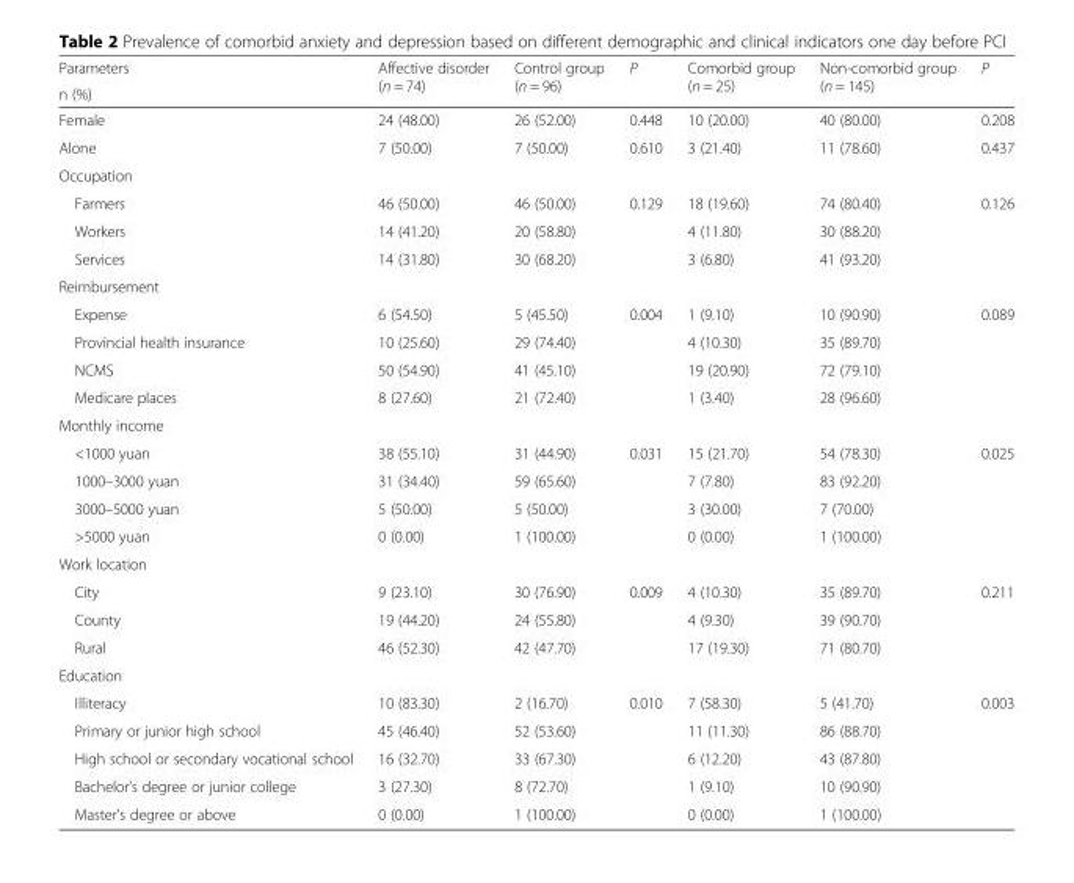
<table><thead><tr><td rowspan="2">Parameters n (%)</td><td rowspan="2">Affective disorder (n = 74)</td><td rowspan="2">Control group (n = 96)</td><td rowspan="2">P</td><td rowspan="2">Comorbid group (n = 25)</td><td rowspan="2">Non-comorbid group (n = 145)</td><td rowspan="2">P</td></tr><tr></tr></thead><tbody><tr><td>Female</td><td>24 (48.00)</td><td>26 (52.00)</td><td>0.448</td><td>10 (20.00)</td><td>40 (80.00)</td><td>0.208</td></tr><tr><td>Alone</td><td>7 (50.00)</td><td>7 (50.00)</td><td>0.610</td><td>3 (21.40)</td><td>11 (78.60)</td><td>0.437</td></tr><tr><td colspan="7">Occupation</td></tr><tr><td>Farmers</td><td>46 (50.00)</td><td>46 (50.00)</td><td>0.129</td><td>18 (19.60)</td><td>74 (80.40)</td><td>0.126</td></tr><tr><td>Workers</td><td>14 (41.20)</td><td>20 (58.80)</td><td></td><td>4 (11.80)</td><td>30 (88.20)</td><td></td></tr><tr><td>Services</td><td>14 (31.80)</td><td>30 (68.20)</td><td></td><td>3 (6.80)</td><td>41 (93.20)</td><td></td></tr><tr><td colspan="7">Reimbursement</td></tr><tr><td>Expense</td><td>6 (54.50)</td><td>5 (45.50)</td><td>0.004</td><td>1 (9.10)</td><td>10 (90.90)</td><td>0.089</td></tr><tr><td>Provincial health insurance</td><td>10 (25.60)</td><td>29 (74.40)</td><td></td><td>4 (10.30)</td><td>35 (89.70)</td><td></td></tr><tr><td>NCMS</td><td>50 (54.90)</td><td>41 (45.10)</td><td></td><td>19 (20.90)</td><td>72 (79.10)</td><td></td></tr><tr><td>Medicare places</td><td>8 (27.60)</td><td>21 (72.40)</td><td></td><td>1 (3.40)</td><td>28 (96.60)</td><td></td></tr><tr><td colspan="7">Monthly income</td></tr><tr><td>&lt;1000 yuan</td><td>38 (55.10)</td><td>31 (44.90)</td><td>0.031</td><td>15 (21.70)</td><td>54 (78.30)</td><td>0.025</td></tr><tr><td>1000–3000 yuan</td><td>31 (34.40)</td><td>59 (65.60)</td><td></td><td>7 (7.80)</td><td>83 (92.20)</td><td></td></tr><tr><td>3000–5000 yuan</td><td>5 (50.00)</td><td>5 (50.00)</td><td></td><td>3 (30.00)</td><td>7 (70.00)</td><td></td></tr><tr><td>&gt;5000 yuan</td><td>0 (0.00)</td><td>1 (100.00)</td><td></td><td>0 (0.00)</td><td>1 (100.00)</td><td></td></tr><tr><td colspan="7">Work location</td></tr><tr><td>City</td><td>9 (23.10)</td><td>30 (76.90)</td><td>0.009</td><td>4 (10.30)</td><td>35 (89.70)</td><td>0.211</td></tr><tr><td>County</td><td>19 (44.20)</td><td>24 (55.80)</td><td></td><td>4 (9.30)</td><td>39 (90.70)</td><td></td></tr><tr><td>Rural</td><td>46 (52.30)</td><td>42 (47.70)</td><td></td><td>17 (19.30)</td><td>71 (80.70)</td><td></td></tr><tr><td colspan="7">Education</td></tr><tr><td>Illiteracy</td><td>10 (83.30)</td><td>2 (16.70)</td><td>0.010</td><td>7 (58.30)</td><td>5 (41.70)</td><td>0.003</td></tr><tr><td>Primary or junior high school</td><td>45 (46.40)</td><td>52 (53.60)</td><td></td><td>11 (11.30)</td><td>86 (88.70)</td><td></td></tr><tr><td>High school or secondary vocational school</td><td>16 (32.70)</td><td>33 (67.30)</td><td></td><td>6 (12.20)</td><td>43 (87.80)</td><td></td></tr><tr><td>Bachelor’s degree or junior college</td><td>3 (27.30)</td><td>8 (72.70)</td><td></td><td>1 (9.10)</td><td>10 (90.90)</td><td></td></tr><tr><td>Master’s degree or above</td><td>0 (0.00)</td><td>1 (100.00)</td><td></td><td>0 (0.00)</td><td>1 (100.00)</td><td></td></tr></tbody></table>